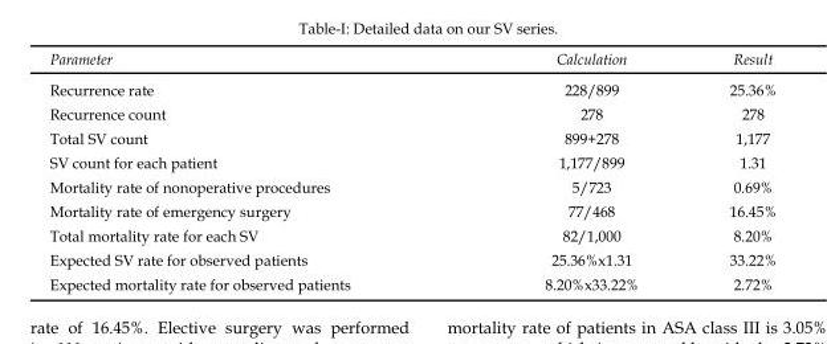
<table><thead><tr><td>Parameter</td><td>Calculation</td><td>Result</td></tr></thead><tbody><tr><td>Recurrence rate</td><td>228/899</td><td>25.36%</td></tr><tr><td>Recurrence count</td><td>278</td><td>278</td></tr><tr><td>Total SV count</td><td>899+278</td><td>1,177</td></tr><tr><td>SV count for each patient</td><td>1,177/899</td><td>1.31</td></tr><tr><td>Mortality rate of nonoperative procedures</td><td>5/723</td><td>0.69%</td></tr><tr><td>Mortality rate of emergency surgery</td><td>77/468</td><td>16.45%</td></tr><tr><td>Total mortality rate for each SV</td><td>82/1,000</td><td>8.20%</td></tr><tr><td>Expected SV rate for observed patients</td><td>25.36%x1.31</td><td>33.22%</td></tr><tr><td>Expected mortality rate for observed patients</td><td>8.20%x33.22%</td><td>2.72%</td></tr></tbody></table>